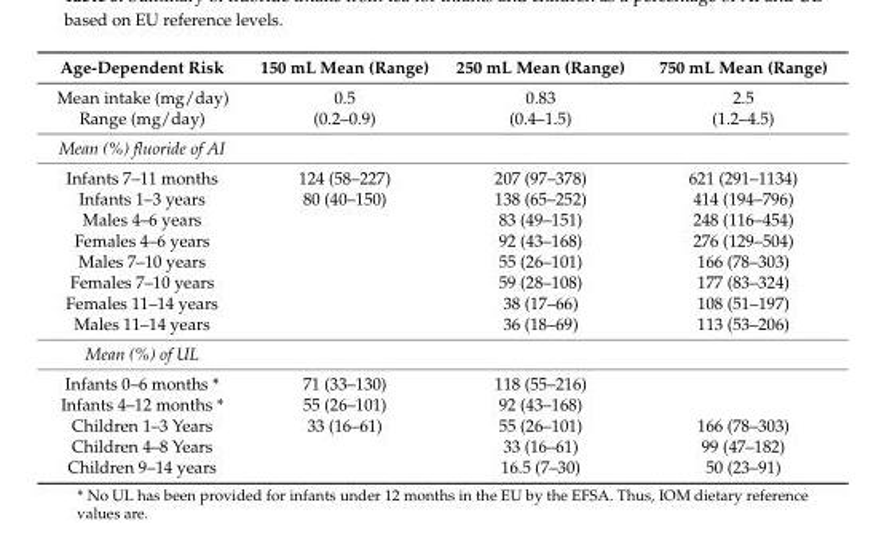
<table><thead><tr><td>Age-Dependent Risk</td><td>150 mL Mean (Range)</td><td>250 mL Mean (Range)</td><td>750 mL Mean (Range)</td></tr></thead><tbody><tr><td>Mean intake (mg/day) Range (mg/day)</td><td>0.5 (0.2–0.9)</td><td>0.83 (0.4–1.5)</td><td>2.5 (1.2–4.5)</td></tr><tr><td colspan="4">Mean (%) fluoride of AI</td></tr><tr><td>Infants 7–11 months</td><td>124 (58–227)</td><td>207 (97–378)</td><td>621 (291–1134)</td></tr><tr><td>Infants 1–3 years</td><td>80 (40–150)</td><td>138 (65–252)</td><td>414 (194–796)</td></tr><tr><td>Males 4–6 years</td><td></td><td>83 (49–151)</td><td>248 (116–454)</td></tr><tr><td>Females 4–6 years</td><td></td><td>92 (43–168)</td><td>276 (129–504)</td></tr><tr><td>Males 7–10 years</td><td></td><td>55 (26–101)</td><td>166 (78–303)</td></tr><tr><td>Females 7–10 years</td><td></td><td>59 (28–108)</td><td>177 (83–324)</td></tr><tr><td>Females 11–14 years</td><td></td><td>38 (17–66)</td><td>108 (51–197)</td></tr><tr><td>Males 11–14 years</td><td></td><td>36 (18–69)</td><td>113 (53–206)</td></tr><tr><td colspan="4">Mean (%) of UL</td></tr><tr><td>Infants 0–6 months *</td><td>71 (33–130)</td><td>118 (55–216)</td><td></td></tr><tr><td>Infants 4–12 months *</td><td>55 (26–101)</td><td>92 (43–168)</td><td></td></tr><tr><td>Children 1–3 Years</td><td>33 (16–61)</td><td>55 (26–101)</td><td>166 (78–303)</td></tr><tr><td>Children 4–8 Years</td><td></td><td>33 (16–61)</td><td>99 (47–182)</td></tr><tr><td>Children 9–14 years</td><td></td><td>16.5 (7–30)</td><td>50 (23–91)</td></tr></tbody></table>